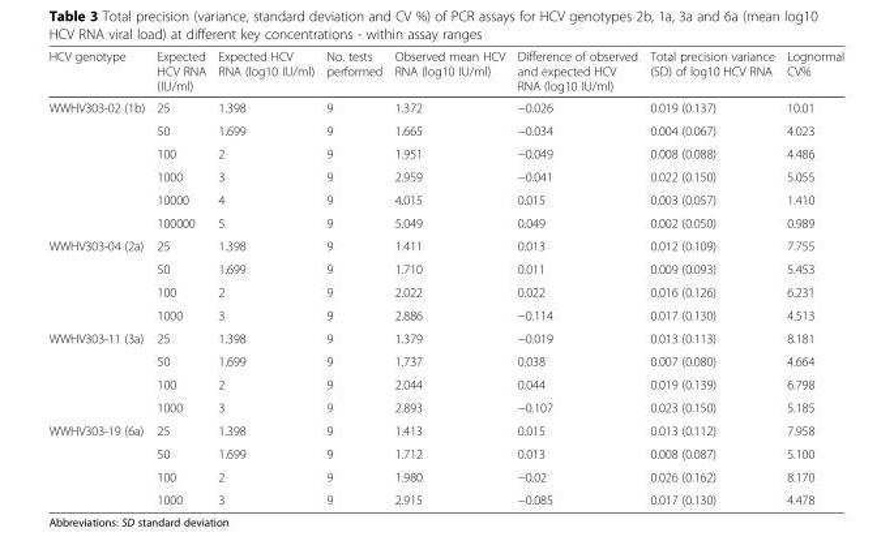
<table><thead><tr><td>HCV genotype</td><td>Expected HCV RNA (IU/ml)</td><td>Expected HCV RNA (log10 IU/ml)</td><td>No. tests performed</td><td>Observed mean HCV RNA (log10 IU/ml)</td><td>Difference of observed and expected HCV RNA (log10 IU/ml)</td><td>Total precision variance (SD) of log10 HCV RNA</td><td>Lognormal CV%</td></tr></thead><tbody><tr><td rowspan="6">WWHV303-02 (1b)</td><td>25</td><td>1.398</td><td>9</td><td>1.372</td><td>−0.026</td><td>0.019 (0.137)</td><td>10.01</td></tr><tr><td>50</td><td>1.699</td><td>9</td><td>1.665</td><td>−0.034</td><td>0.004 (0.067)</td><td>4.023</td></tr><tr><td>100</td><td>2</td><td>9</td><td>1.951</td><td>−0.049</td><td>0.008 (0.088)</td><td>4.486</td></tr><tr><td>1000</td><td>3</td><td>9</td><td>2.959</td><td>−0.041</td><td>0.022 (0.150)</td><td>5.055</td></tr><tr><td>10000</td><td>4</td><td>9</td><td>4.015</td><td>0.015</td><td>0.003 (0.057)</td><td>1.410</td></tr><tr><td>100000</td><td>5</td><td>9</td><td>5.049</td><td>0.049</td><td>0.002 (0.050)</td><td>0.989</td></tr><tr><td rowspan="4">WWHV303-04 (2a)</td><td>25</td><td>1.398</td><td>9</td><td>1.411</td><td>0.013</td><td>0.012 (0.109)</td><td>7.755</td></tr><tr><td>50</td><td>1.699</td><td>9</td><td>1.710</td><td>0.011</td><td>0.009 (0.093)</td><td>5.453</td></tr><tr><td>100</td><td>2</td><td>9</td><td>2.022</td><td>0.022</td><td>0.016 (0.126)</td><td>6.231</td></tr><tr><td>1000</td><td>3</td><td>9</td><td>2.886</td><td>−0.114</td><td>0.017 (0.130)</td><td>4.513</td></tr><tr><td rowspan="4">WWHV303-11 (3a)</td><td>25</td><td>1.398</td><td>9</td><td>1.379</td><td>−0.019</td><td>0.013 (0.113)</td><td>8.181</td></tr><tr><td>50</td><td>1.699</td><td>9</td><td>1.737</td><td>0.038</td><td>0.007 (0.080)</td><td>4.664</td></tr><tr><td>100</td><td>2</td><td>9</td><td>2.044</td><td>0.044</td><td>0.019 (0.139)</td><td>6.798</td></tr><tr><td>1000</td><td>3</td><td>9</td><td>2.893</td><td>−0.107</td><td>0.023 (0.150)</td><td>5.185</td></tr><tr><td rowspan="4">WWHV303-19 (6a)</td><td>25</td><td>1.398</td><td>9</td><td>1.413</td><td>0.015</td><td>0.013 (0.112)</td><td>7.958</td></tr><tr><td>50</td><td>1.699</td><td>9</td><td>1.712</td><td>0.013</td><td>0.008 (0.087)</td><td>5.100</td></tr><tr><td>100</td><td>2</td><td>9</td><td>1.980</td><td>−0.02</td><td>0.026 (0.162)</td><td>8.170</td></tr><tr><td>1000</td><td>3</td><td>9</td><td>2.915</td><td>−0.085</td><td>0.017 (0.130)</td><td>4.478</td></tr></tbody></table>